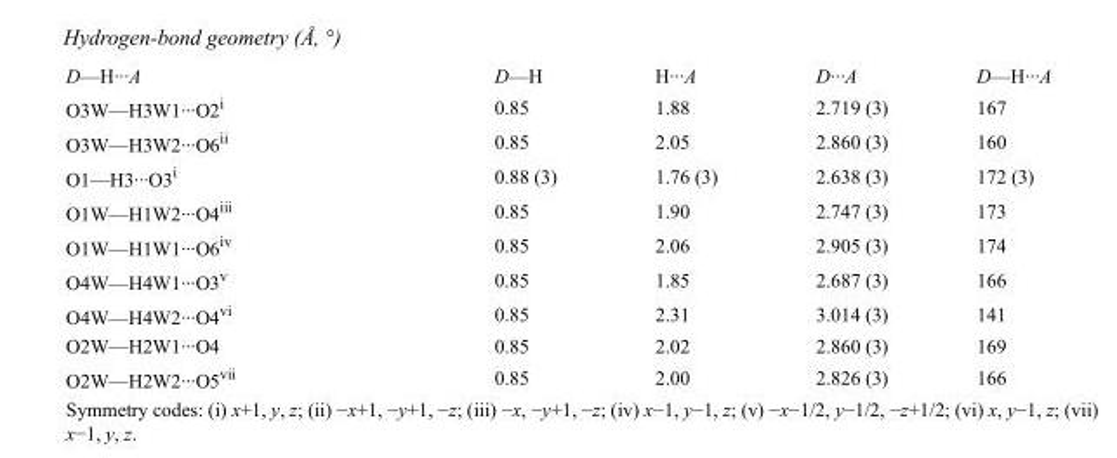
<table><tbody><tr><td>D—H···A</td><td>D—H</td><td>H···A</td><td>D···A</td><td>D—H···A</td></tr><tr><td>O3W—H3W1···O2<sup>i</sup></td><td>0.85</td><td>1.88</td><td>2.719 (3)</td><td>167</td></tr><tr><td>O3W—H3W2···O6<sup>ii</sup></td><td>0.85</td><td>2.05</td><td>2.860 (3)</td><td>160</td></tr><tr><td>O1—H3···O3<sup>i</sup></td><td>0.88 (3)</td><td>1.76 (3)</td><td>2.638 (3)</td><td>172 (3)</td></tr><tr><td>O1W—H1W2···O4<sup>iii</sup></td><td>0.85</td><td>1.90</td><td>2.747 (3)</td><td>173</td></tr><tr><td>O1W—H1W1···O6<sup>iv</sup></td><td>0.85</td><td>2.06</td><td>2.905 (3)</td><td>174</td></tr><tr><td>O4W—H4W1···O3<sup>v</sup></td><td>0.85</td><td>1.85</td><td>2.687 (3)</td><td>166</td></tr><tr><td>O4W—H4W2···O4<sup>vi</sup></td><td>0.85</td><td>2.31</td><td>3.014 (3)</td><td>141</td></tr><tr><td>O2W—H2W1···O4</td><td>0.85</td><td>2.02</td><td>2.860 (3)</td><td>169</td></tr><tr><td>O2W—H2W2···O5<sup>vii</sup></td><td>0.85</td><td>2.00</td><td>2.826 (3)</td><td>166</td></tr></tbody></table>